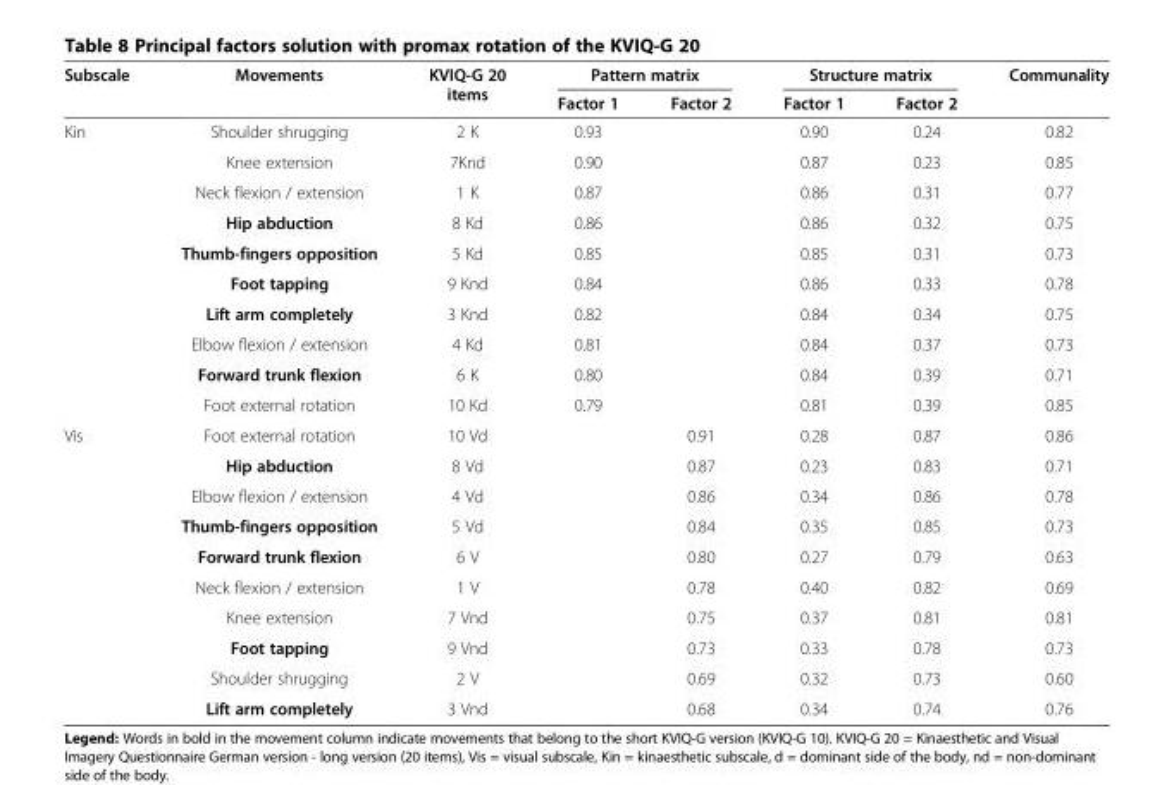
<table><thead><tr><td rowspan="2">Subscale</td><td rowspan="2">Movements</td><td rowspan="2">KVIQ-G 20 items</td><td colspan="2">Pattern matrix</td><td colspan="2">Structure matrix</td><td rowspan="2">Communality</td></tr><tr><td>Factor 1</td><td>Factor 2</td><td>Factor 1</td><td>Factor 2</td></tr></thead><tbody><tr><td rowspan="10">Kin</td><td>Shoulder shrugging</td><td>2 K</td><td>0.93</td><td></td><td>0.90</td><td>0.24</td><td>0.82</td></tr><tr><td>Knee extension</td><td>7Knd</td><td>0.90</td><td></td><td>0.87</td><td>0.23</td><td>0.85</td></tr><tr><td>Neck flexion / extension</td><td>1 K</td><td>0.87</td><td></td><td>0.86</td><td>0.31</td><td>0.77</td></tr><tr><td>Hip abduction</td><td>8 Kd</td><td>0.86</td><td></td><td>0.86</td><td>0.32</td><td>0.75</td></tr><tr><td>Thumb-fingers opposition</td><td>5 Kd</td><td>0.85</td><td></td><td>0.85</td><td>0.31</td><td>0.73</td></tr><tr><td>Foot tapping</td><td>9 Knd</td><td>0.84</td><td></td><td>0.86</td><td>0.33</td><td>0.78</td></tr><tr><td>Lift arm completely</td><td>3 Knd</td><td>0.82</td><td></td><td>0.84</td><td>0.34</td><td>0.75</td></tr><tr><td>Elbow flexion / extension</td><td>4 Kd</td><td>0.81</td><td></td><td>0.84</td><td>0.37</td><td>0.73</td></tr><tr><td>Forward trunk flexion</td><td>6 K</td><td>0.80</td><td></td><td>0.84</td><td>0.39</td><td>0.71</td></tr><tr><td>Foot external rotation</td><td>10 Kd</td><td>0.79</td><td></td><td>0.81</td><td>0.39</td><td>0.85</td></tr><tr><td rowspan="10">Vis</td><td>Foot external rotation</td><td>10 Vd</td><td></td><td>0.91</td><td>0.28</td><td>0.87</td><td>0.86</td></tr><tr><td>Hip abduction</td><td>8 Vd</td><td></td><td>0.87</td><td>0.23</td><td>0.83</td><td>0.71</td></tr><tr><td>Elbow flexion / extension</td><td>4 Vd</td><td></td><td>0.86</td><td>0.34</td><td>0.86</td><td>0.78</td></tr><tr><td>Thumb-fingers opposition</td><td>5 Vd</td><td></td><td>0.84</td><td>0.35</td><td>0.85</td><td>0.73</td></tr><tr><td>Forward trunk flexion</td><td>6 V</td><td></td><td>0.80</td><td>0.27</td><td>0.79</td><td>0.63</td></tr><tr><td>Neck flexion / extension</td><td>1 V</td><td></td><td>0.78</td><td>0.40</td><td>0.82</td><td>0.69</td></tr><tr><td>Knee extension</td><td>7 Vnd</td><td></td><td>0.75</td><td>0.37</td><td>0.81</td><td>0.81</td></tr><tr><td>Foot tapping</td><td>9 Vnd</td><td></td><td>0.73</td><td>0.33</td><td>0.78</td><td>0.73</td></tr><tr><td>Shoulder shrugging</td><td>2 V</td><td></td><td>0.69</td><td>0.32</td><td>0.73</td><td>0.60</td></tr><tr><td>Lift arm completely</td><td>3 Vnd</td><td></td><td>0.68</td><td>0.34</td><td>0.74</td><td>0.76</td></tr></tbody></table>